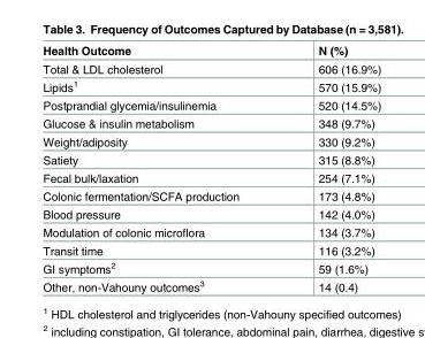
<table><thead><tr><td>Health Outcome</td><td>N (%)</td></tr></thead><tbody><tr><td>Total &amp; LDL cholesterol</td><td>606 (16.9%)</td></tr><tr><td>Lipids<sup>1</sup></td><td>570 (15.9%)</td></tr><tr><td>Postprandial glycemia/insulinemia</td><td>520 (14.5%)</td></tr><tr><td>Glucose &amp; insulin metabolism</td><td>348 (9.7%)</td></tr><tr><td>Weight/adiposity</td><td>330 (9.2%)</td></tr><tr><td>Satiety</td><td>315 (8.8%)</td></tr><tr><td>Fecal bulk/laxation</td><td>254 (7.1%)</td></tr><tr><td>Colonic fermentation/SCFA production</td><td>173 (4.8%)</td></tr><tr><td>Blood pressure</td><td>142 (4.0%)</td></tr><tr><td>Modulation of colonic microflora</td><td>134 (3.7%)</td></tr><tr><td>Transit time</td><td>116 (3.2%)</td></tr><tr><td>GI symptoms<sup>2</sup></td><td>59 (1.6%)</td></tr><tr><td>Other, non-Vahouny outcomes<sup>3</sup></td><td>14 (0.4)</td></tr></tbody></table>